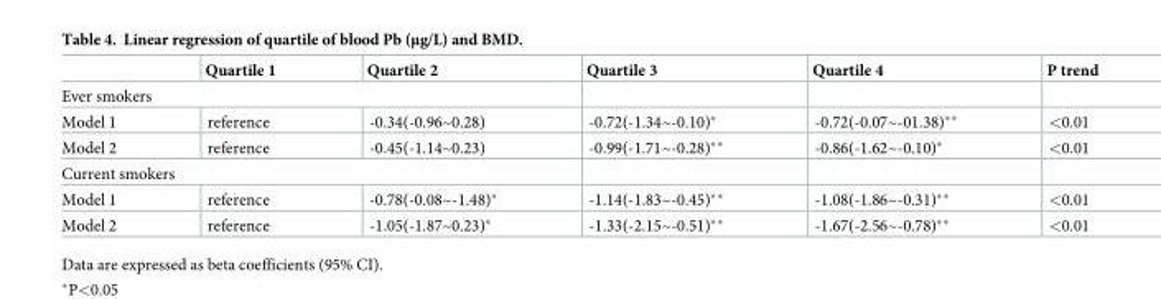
<table><thead><tr><td></td><td>Quartile 1</td><td>Quartile 2</td><td>Quartile 3</td><td>Quartile 4</td><td>P trend</td></tr></thead><tbody><tr><td colspan="6">Ever smokers</td></tr><tr><td>Model 1</td><td>reference</td><td>-0.34(-0.96~0.28)</td><td>-0.72(-1.34~-0.10)*</td><td>-0.72(-0.07~-01.38)**</td><td>&lt;0.01</td></tr><tr><td>Model 2</td><td>reference</td><td>-0.45(-1.14~0.23)</td><td>-0.99(-1.71~-0.28)**</td><td>-0.86(-1.62~-0.10)*</td><td>&lt;0.01</td></tr><tr><td colspan="6">Current smokers</td></tr><tr><td>Model 1</td><td>reference</td><td>-0.78(-0.08~-1.48)*</td><td>-1.14(-1.83~-0.45)**</td><td>-1.08(-1.86~-0.31)**</td><td>&lt;0.01</td></tr><tr><td>Model 2</td><td>reference</td><td>-1.05(-1.87~0.23)*</td><td>-1.33(-2.15~-0.51)**</td><td>-1.67(-2.56~-0.78)**</td><td>&lt;0.01</td></tr></tbody></table>